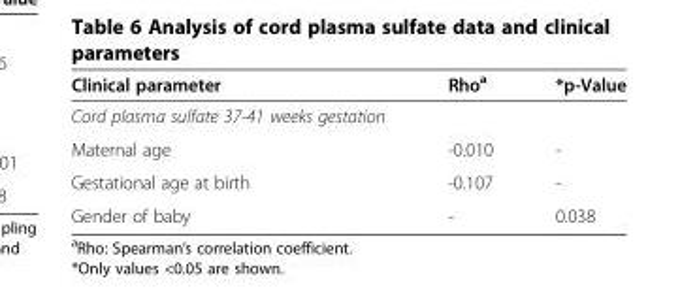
<table><thead><tr><td>Clinical parameter</td><td>Rho<sup>a</sup></td><td>*p-Value</td></tr></thead><tbody><tr><td colspan="3">Cord plasma sulfate 37-41 weeks gestation</td></tr><tr><td>Maternal age</td><td>-0.010</td><td>-</td></tr><tr><td>Gestational age at birth</td><td>-0.107</td><td>-</td></tr><tr><td>Gender of baby</td><td>-</td><td>0.038</td></tr></tbody></table>